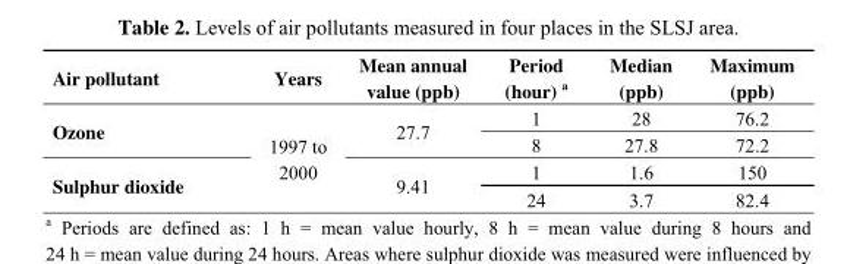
<table><thead><tr><td>Air pollutant</td><td>Years</td><td>Mean annual value (ppb)</td><td>Period (hour) <sup>a</sup></td><td>Median (ppb)</td><td>Maximum (ppb)</td></tr></thead><tbody><tr><td rowspan="2">Ozone</td><td rowspan="4">1997 to 2000</td><td rowspan="2">27.7</td><td>1</td><td>28</td><td>76.2</td></tr><tr><td>8</td><td>27.8</td><td>72.2</td></tr><tr><td rowspan="2">Sulphur dioxide</td><td rowspan="2">9.41</td><td>1</td><td>1.6</td><td>150</td></tr><tr><td>24</td><td>3.7</td><td>82.4</td></tr></tbody></table>